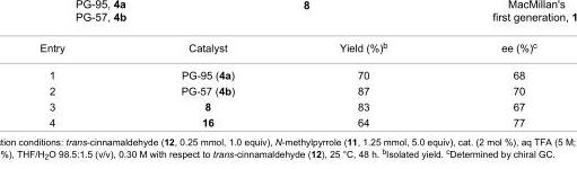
<table><tbody><tr><td>Entry</td><td>Catalyst</td><td>Yield (%)<sup>b</sup></td><td>ee (%)<sup>c</sup></td></tr><tr><td>1</td><td>PG-95 (4a)</td><td>70</td><td>68</td></tr><tr><td>2</td><td>PG-57 (4b)</td><td>87</td><td>70</td></tr><tr><td>3</td><td>8</td><td>83</td><td>67</td></tr><tr><td>4</td><td>16</td><td>64</td><td>77</td></tr></tbody></table>